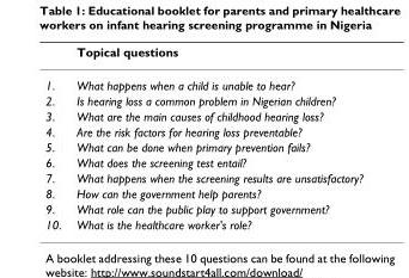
<table><thead><tr><td></td><td>Topical questions</td></tr></thead><tbody><tr><td>1.</td><td>What happens when a child is unable to hear?</td></tr><tr><td>2.</td><td>Is hearing loss a common problem in Nigerian children?</td></tr><tr><td>3.</td><td>What are the main causes of childhood hearing loss?</td></tr><tr><td>4.</td><td>Are the risk factors for hearing loss preventable?</td></tr><tr><td>5.</td><td>What can be done when primary prevention fails?</td></tr><tr><td>6.</td><td>What does the screening test entail?</td></tr><tr><td>7.</td><td>What happens when the screening results are unsatisfactory?</td></tr><tr><td>8.</td><td>How can the government help parents?</td></tr><tr><td>9.</td><td>What role can the public play to support government?</td></tr><tr><td>10.</td><td>What is the healthcare worker&#x27;s role?</td></tr></tbody></table>